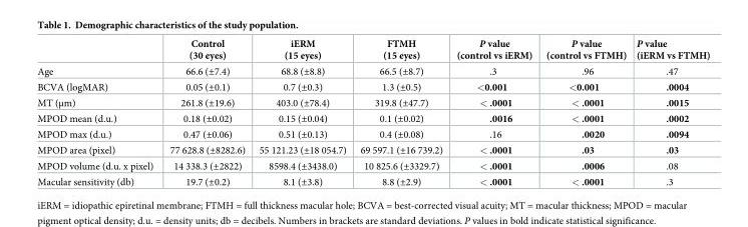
<table><thead><tr><td></td><td>Control (30 eyes)</td><td>iERM (15 eyes)</td><td>FTMH (15 eyes)</td><td>P value (control vs iERM)</td><td>P value (control vs FTMH)</td><td>P value (iERM vs FTMH)</td></tr></thead><tbody><tr><td>Age</td><td>66.6 (±7.4)</td><td>68.8 (±8.8)</td><td>66.5 (±8.7)</td><td>.3</td><td>.96</td><td>.47</td></tr><tr><td>BCVA (logMAR)</td><td>0.05 (±0.1)</td><td>0.7 (±0.3)</td><td>1.3 (±0.5)</td><td>&lt;0.001</td><td>&lt;0.001</td><td>.0004</td></tr><tr><td>MT (μm)</td><td>261.8 (±19.6)</td><td>403.0 (±78.4)</td><td>319.8 (±47.7)</td><td>&lt; .0001</td><td>&lt; .0001</td><td>.0015</td></tr><tr><td>MPOD mean (d.u.)</td><td>0.18 (±0.02)</td><td>0.15 (±0.04)</td><td>0.1 (±0.02)</td><td>.0016</td><td>&lt; .0001</td><td>.0002</td></tr><tr><td>MPOD max (d.u.)</td><td>0.47 (±0.06)</td><td>0.51 (±0.13)</td><td>0.4 (±0.08)</td><td>.16</td><td>.0020</td><td>.0094</td></tr><tr><td>MPOD area (pixel)</td><td>77 628.8 (±8282.6)</td><td>55 121.23 (±18 054.7)</td><td>69 597.1 (±16 739.2)</td><td>&lt; .0001</td><td>.03</td><td>.03</td></tr><tr><td>MPOD volume (d.u. x pixel)</td><td>14 338.3 (±2822)</td><td>8598.4 (±3438.0)</td><td>10 825.6 (±3329.7)</td><td>&lt; .0001</td><td>.0006</td><td>.08</td></tr><tr><td>Macular sensitivity (db)</td><td>19.7 (±0.2)</td><td>8.1 (±3.8)</td><td>8.8 (±2.9)</td><td>&lt; .0001</td><td>&lt; .0001</td><td>.3</td></tr></tbody></table>